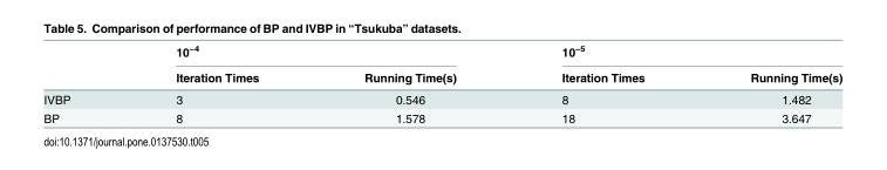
<table><thead><tr><td rowspan="2"></td><td colspan="2">10<sup>−4</sup></td><td colspan="2">10<sup>−5</sup></td></tr><tr><td>Iteration Times</td><td>Running Time(s)</td><td>Iteration Times</td><td>Running Time(s)</td></tr></thead><tbody><tr><td>IVBP</td><td>3</td><td>0.546</td><td>8</td><td>1.482</td></tr><tr><td>BP</td><td>8</td><td>1.578</td><td>18</td><td>3.647</td></tr></tbody></table>